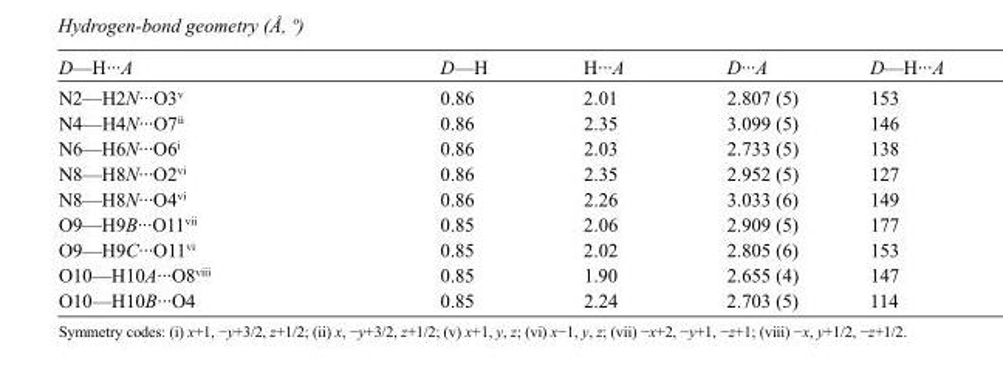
<table><tbody><tr><td>D—H···A</td><td>D—H</td><td>H···A</td><td>D···A</td><td>D—H···A</td></tr><tr><td>N2—H2N···O3<sup>v</sup></td><td>0.86</td><td>2.01</td><td>2.807 (5)</td><td>153</td></tr><tr><td>N4—H4N···O7<sup>ii</sup></td><td>0.86</td><td>2.35</td><td>3.099 (5)</td><td>146</td></tr><tr><td>N6—H6N···O6<sup>i</sup></td><td>0.86</td><td>2.03</td><td>2.733 (5)</td><td>138</td></tr><tr><td>N8—H8N···O2<sup>vi</sup></td><td>0.86</td><td>2.35</td><td>2.952 (5)</td><td>127</td></tr><tr><td>N8—H8N···O4<sup>vi</sup></td><td>0.86</td><td>2.26</td><td>3.033 (6)</td><td>149</td></tr><tr><td>O9—H9B···O11<sup>vii</sup></td><td>0.85</td><td>2.06</td><td>2.909 (5)</td><td>177</td></tr><tr><td>O9—H9C···O11<sup>vi</sup></td><td>0.85</td><td>2.02</td><td>2.805 (6)</td><td>153</td></tr><tr><td>O10—H10A···O8<sup>viii</sup></td><td>0.85</td><td>1.90</td><td>2.655 (4)</td><td>147</td></tr><tr><td>O10—H10B···O4</td><td>0.85</td><td>2.24</td><td>2.703 (5)</td><td>114</td></tr></tbody></table>